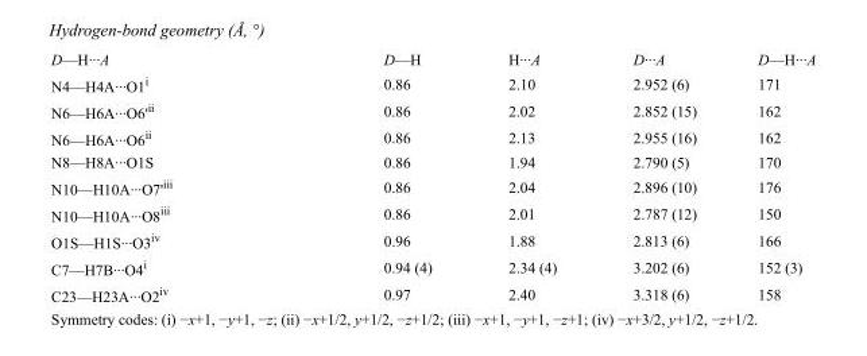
<table><tbody><tr><td>D—H···A</td><td>D—H</td><td>H···A</td><td>D···A</td><td>D—H···A</td></tr><tr><td>N4—H4A···O1<sup>i</sup></td><td>0.86</td><td>2.10</td><td>2.952 (6)</td><td>171</td></tr><tr><td>N6—H6A···O6&#x27;<sup>ii</sup></td><td>0.86</td><td>2.02</td><td>2.852 (15)</td><td>162</td></tr><tr><td>N6—H6A···O6<sup>ii</sup></td><td>0.86</td><td>2.13</td><td>2.955 (16)</td><td>162</td></tr><tr><td>N8—H8A···O1S</td><td>0.86</td><td>1.94</td><td>2.790 (5)</td><td>170</td></tr><tr><td>N10—H10A···O7&#x27;<sup>iii</sup></td><td>0.86</td><td>2.04</td><td>2.896 (10)</td><td>176</td></tr><tr><td>N10—H10A···O8<sup>iii</sup></td><td>0.86</td><td>2.01</td><td>2.787 (12)</td><td>150</td></tr><tr><td>O1S—H1S···O3<sup>iv</sup></td><td>0.96</td><td>1.88</td><td>2.813 (6)</td><td>166</td></tr><tr><td>C7—H7B···O4<sup>i</sup></td><td>0.94 (4)</td><td>2.34 (4)</td><td>3.202 (6)</td><td>152 (3)</td></tr><tr><td>C23—H23A···O2<sup>iv</sup></td><td>0.97</td><td>2.40</td><td>3.318 (6)</td><td>158</td></tr></tbody></table>